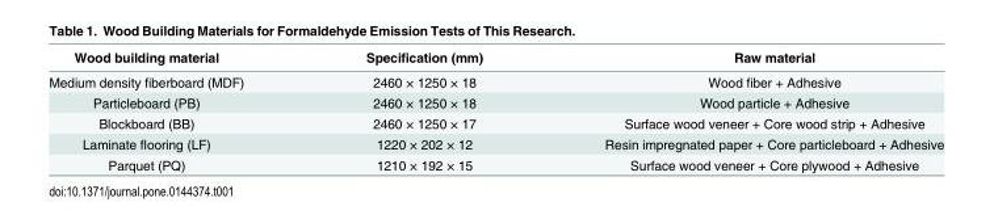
<table><thead><tr><td>Wood building material</td><td>Specification (mm)</td><td>Raw material</td></tr></thead><tbody><tr><td>Medium density fiberboard (MDF)</td><td>2460 × 1250 × 18</td><td>Wood fiber + Adhesive</td></tr><tr><td>Particleboard (PB)</td><td>2460 × 1250 × 18</td><td>Wood particle + Adhesive</td></tr><tr><td>Blockboard (BB)</td><td>2460 × 1250 × 17</td><td>Surface wood veneer + Core wood strip + Adhesive</td></tr><tr><td>Laminate flooring (LF)</td><td>1220 × 202 × 12</td><td>Resin impregnated paper + Core particleboard + Adhesive</td></tr><tr><td>Parquet (PQ)</td><td>1210 × 192 × 15</td><td>Surface wood veneer + Core plywood + Adhesive</td></tr></tbody></table>